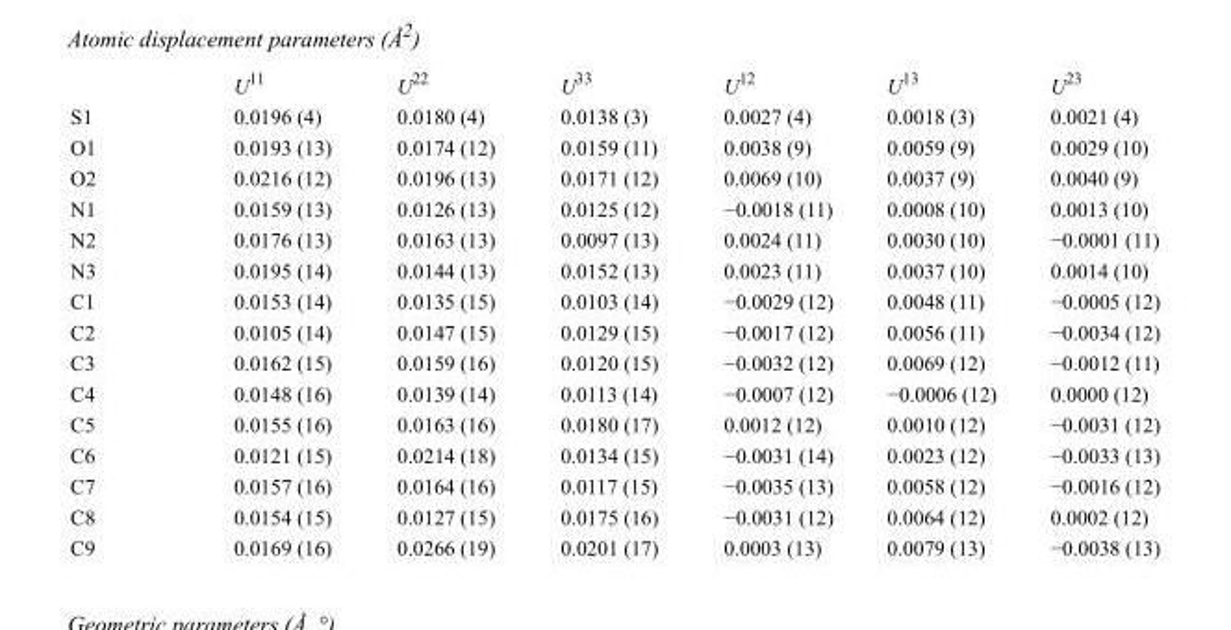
<table><thead><tr><td></td><td>U<sup>11</sup></td><td>U<sup>22</sup></td><td>U<sup>33</sup></td><td>U<sup>12</sup></td><td>U<sup>13</sup></td><td>U<sup>23</sup></td></tr></thead><tbody><tr><td>S1</td><td>0.0196 (4)</td><td>0.0180 (4)</td><td>0.0138 (3)</td><td>0.0027 (4)</td><td>0.0018 (3)</td><td>0.0021 (4)</td></tr><tr><td>O1</td><td>0.0193 (13)</td><td>0.0174 (12)</td><td>0.0159 (11)</td><td>0.0038 (9)</td><td>0.0059 (9)</td><td>0.0029 (10)</td></tr><tr><td>O2</td><td>0.0216 (12)</td><td>0.0196 (13)</td><td>0.0171 (12)</td><td>0.0069 (10)</td><td>0.0037 (9)</td><td>0.0040 (9)</td></tr><tr><td>N1</td><td>0.0159 (13)</td><td>0.0126 (13)</td><td>0.0125 (12)</td><td>−0.0018 (11)</td><td>0.0008 (10)</td><td>0.0013 (10)</td></tr><tr><td>N2</td><td>0.0176 (13)</td><td>0.0163 (13)</td><td>0.0097 (13)</td><td>0.0024 (11)</td><td>0.0030 (10)</td><td>−0.0001 (11)</td></tr><tr><td>N3</td><td>0.0195 (14)</td><td>0.0144 (13)</td><td>0.0152 (13)</td><td>0.0023 (11)</td><td>0.0037 (10)</td><td>0.0014 (10)</td></tr><tr><td>C1</td><td>0.0153 (14)</td><td>0.0135 (15)</td><td>0.0103 (14)</td><td>−0.0029 (12)</td><td>0.0048 (11)</td><td>−0.0005 (12)</td></tr><tr><td>C2</td><td>0.0105 (14)</td><td>0.0147 (15)</td><td>0.0129 (15)</td><td>−0.0017 (12)</td><td>0.0056 (11)</td><td>−0.0034 (12)</td></tr><tr><td>C3</td><td>0.0162 (15)</td><td>0.0159 (16)</td><td>0.0120 (15)</td><td>−0.0032 (12)</td><td>0.0069 (12)</td><td>−0.0012 (11)</td></tr><tr><td>C4</td><td>0.0148 (16)</td><td>0.0139 (14)</td><td>0.0113 (14)</td><td>−0.0007 (12)</td><td>−0.0006 (12)</td><td>0.0000 (12)</td></tr><tr><td>C5</td><td>0.0155 (16)</td><td>0.0163 (16)</td><td>0.0180 (17)</td><td>0.0012 (12)</td><td>0.0010 (12)</td><td>−0.0031 (12)</td></tr><tr><td>C6</td><td>0.0121 (15)</td><td>0.0214 (18)</td><td>0.0134 (15)</td><td>−0.0031 (14)</td><td>0.0023 (12)</td><td>−0.0033 (13)</td></tr><tr><td>C7</td><td>0.0157 (16)</td><td>0.0164 (16)</td><td>0.0117 (15)</td><td>−0.0035 (13)</td><td>0.0058 (12)</td><td>−0.0016 (12)</td></tr><tr><td>C8</td><td>0.0154 (15)</td><td>0.0127 (15)</td><td>0.0175 (16)</td><td>−0.0031 (12)</td><td>0.0064 (12)</td><td>0.0002 (12)</td></tr><tr><td>C9</td><td>0.0169 (16)</td><td>0.0266 (19)</td><td>0.0201 (17)</td><td>0.0003 (13)</td><td>0.0079 (13)</td><td>−0.0038 (13)</td></tr></tbody></table>